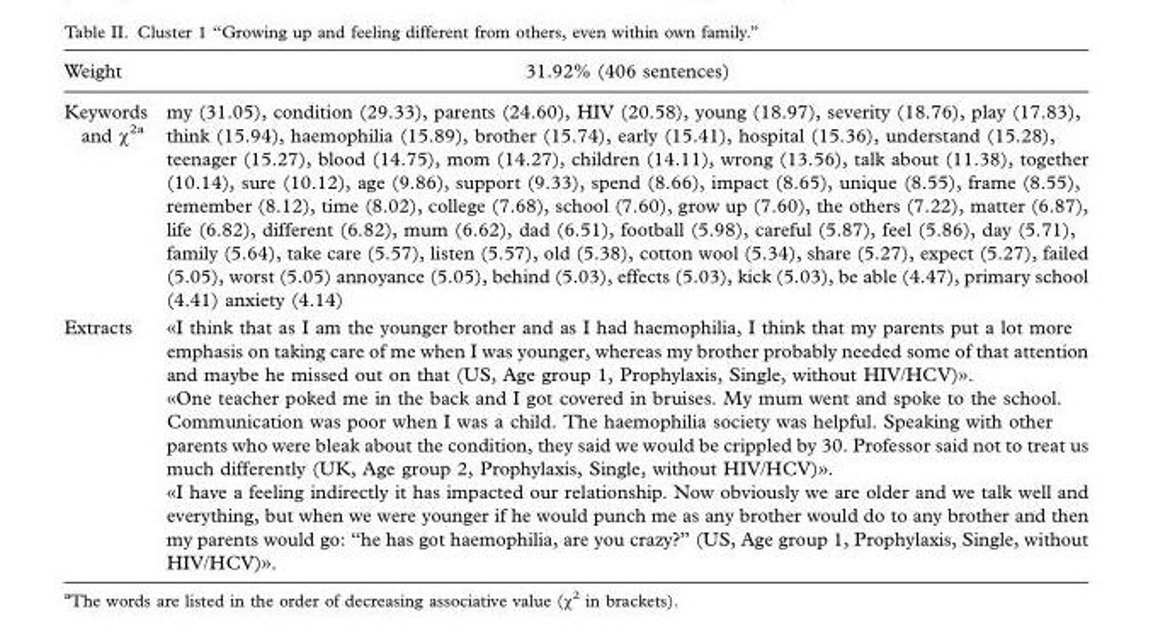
<table><thead><tr><td>Weight</td><td>31.92% (406 sentences)</td></tr></thead><tbody><tr><td>Keywords and χ<sup>2</sup>a</td><td>my (31.05), condition (29.33), parents (24.60), HIV (20.58), young (18.97), severity (18.76), play (17.83), think (15.94), haemophilia (15.89), brother (15.74), early (15.41), hospital (15.36), understand (15.28), teenager (15.27), blood (14.75), mom (14.27), children (14.11), wrong (13.56), talk about (11.38), together (10.14), sure (10.12), age (9.86), support (9.33), spend (8.66), impact (8.65), unique (8.55), frame (8.55), remember (8.12), time (8.02), college (7.68), school (7.60), grow up (7.60), the others (7.22), matter (6.87), life (6.82), different (6.82), mum (6.62), dad (6.51), football (5.98), careful (5.87), feel (5.86), day (5.71), family (5.64), take care (5.57), listen (5.57), old (5.38), cotton wool (5.34), share (5.27), expect (5.27), failed (5.05), worst (5.05) annoyance (5.05), behind (5.03), effects (5.03), kick (5.03), be able (4.47), primary school (4.41) anxiety (4.14)</td></tr><tr><td>Extracts</td><td>«I think that as I am the younger brother and as I had haemophilia, I think that my parents put a lot more emphasis on taking care of me when I was younger, whereas my brother probably needed some of that attention and maybe he missed out on that (US, Age group 1, Prophylaxis, Single, without HIV/HCV)». «One teacher poked me in the back and I got covered in bruises. My mum went and spoke to the school. Communication was poor when I was a child. The haemophilia society was helpful. Speaking with other parents who were bleak about the condition, they said we would be crippled by 30. Professor said not to treat us much differently (UK, Age group 2, Prophylaxis, Single, without HIV/HCV)». «I have a feeling indirectly it has impacted our relationship. Now obviously we are older and we talk well and everything, but when we were younger if he would punch me as any brother would do to any brother and then my parents would go: ‘‘he has got haemophilia, are you crazy?’’ (US, Age group 1, Prophylaxis, Single, without HIV/HCV)».</td></tr></tbody></table>